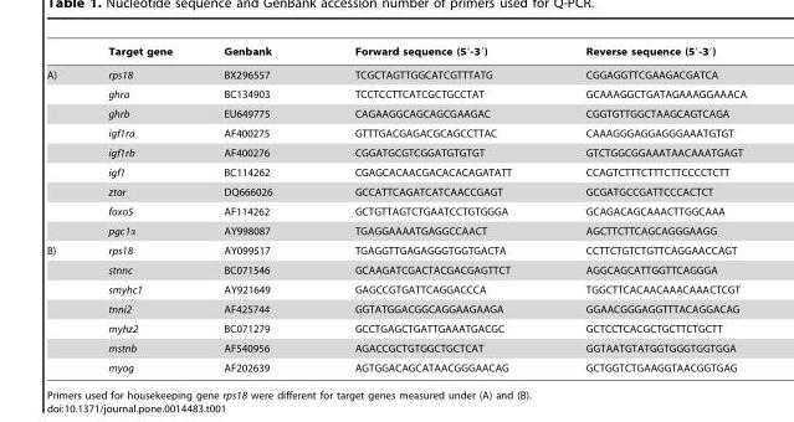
<table><thead><tr><td></td><td>Target gene</td><td>Genbank</td><td>Forward sequence (5′-3′)</td><td>Reverse sequence (5′-3′)</td></tr></thead><tbody><tr><td rowspan="9">A)</td><td>rps18</td><td>BX296557</td><td>TCGCTAGTTGGCATCGTTTATG</td><td>CGGAGGTTCGAAGACGATCA</td></tr><tr><td>ghra</td><td>BC134903</td><td>TCCTCCTTCATCGCTGCCTAT</td><td>GCAAAGGCTGATAGAAAGGAAACA</td></tr><tr><td>ghrb</td><td>EU649775</td><td>CAGAAGGCAGCAGCGAAGAC</td><td>CGGTGTTGGCTAAGCAGTCAGA</td></tr><tr><td>igf1ra</td><td>AF400275</td><td>GTTTGACGAGACGCAGCCTTAC</td><td>CAAAGGGAGGAGGGAAATGTGT</td></tr><tr><td>igf1rb</td><td>AF400276</td><td>CGGATGCGTCGGATGTGTGT</td><td>GTCTGGCGGAAATAACAAATGAGT</td></tr><tr><td>igf1</td><td>BC114262</td><td>CGAGCACAACGACACACAGATATT</td><td>CCAGTCTTTCTTTCTTCCCCTCTT</td></tr><tr><td>ztor</td><td>DQ666026</td><td>GCCATTCAGATCATCAACCGAGT</td><td>GCGATGCCGATTCCCACTCT</td></tr><tr><td>foxo5</td><td>AF114262</td><td>GCTGTTAGTCTGAATCCTGTGGGA</td><td>GCAGACAGCAAACTTGGCAAA</td></tr><tr><td>pgc1α</td><td>AY998087</td><td>TGAGGAAAATGAGGCCAACT</td><td>AGCTTCTTCAGCAGGGAAGG</td></tr><tr><td rowspan="7">B)</td><td>rps18</td><td>AY099517</td><td>TGAGGTTGAGAGGGTGGTGACTA</td><td>CCTTCTGTCTGTTCAGGAACCAGT</td></tr><tr><td>stnnc</td><td>BC071546</td><td>GCAAGATCGACTACGACGAGTTCT</td><td>AGGCAGCATTGGTTCAGGGA</td></tr><tr><td>smyhc1</td><td>AY921649</td><td>GAGCCGTGATTCAGGACCCA</td><td>TGGCTTCACAACAAACAAACTCGT</td></tr><tr><td>tnni2</td><td>AF425744</td><td>GGTATGGACGGCAGGAAGAAGA</td><td>GGAACGGGAGGTTTACAGGACAG</td></tr><tr><td>myhz2</td><td>BC071279</td><td>GCCTGAGCTGATTGAAATGACGC</td><td>GCTCCTCACGCTGCTTCTGCTT</td></tr><tr><td>mstnb</td><td>AF540956</td><td>AGACCGCTGTGGCTGCTCAT</td><td>GGTAATGTATGGTGGGTGGTGGA</td></tr><tr><td>myog</td><td>AF202639</td><td>AGTGGACAGCATAACGGGAACAG</td><td>GCTGGTCTGAAGGTAACGGTGAG</td></tr></tbody></table>